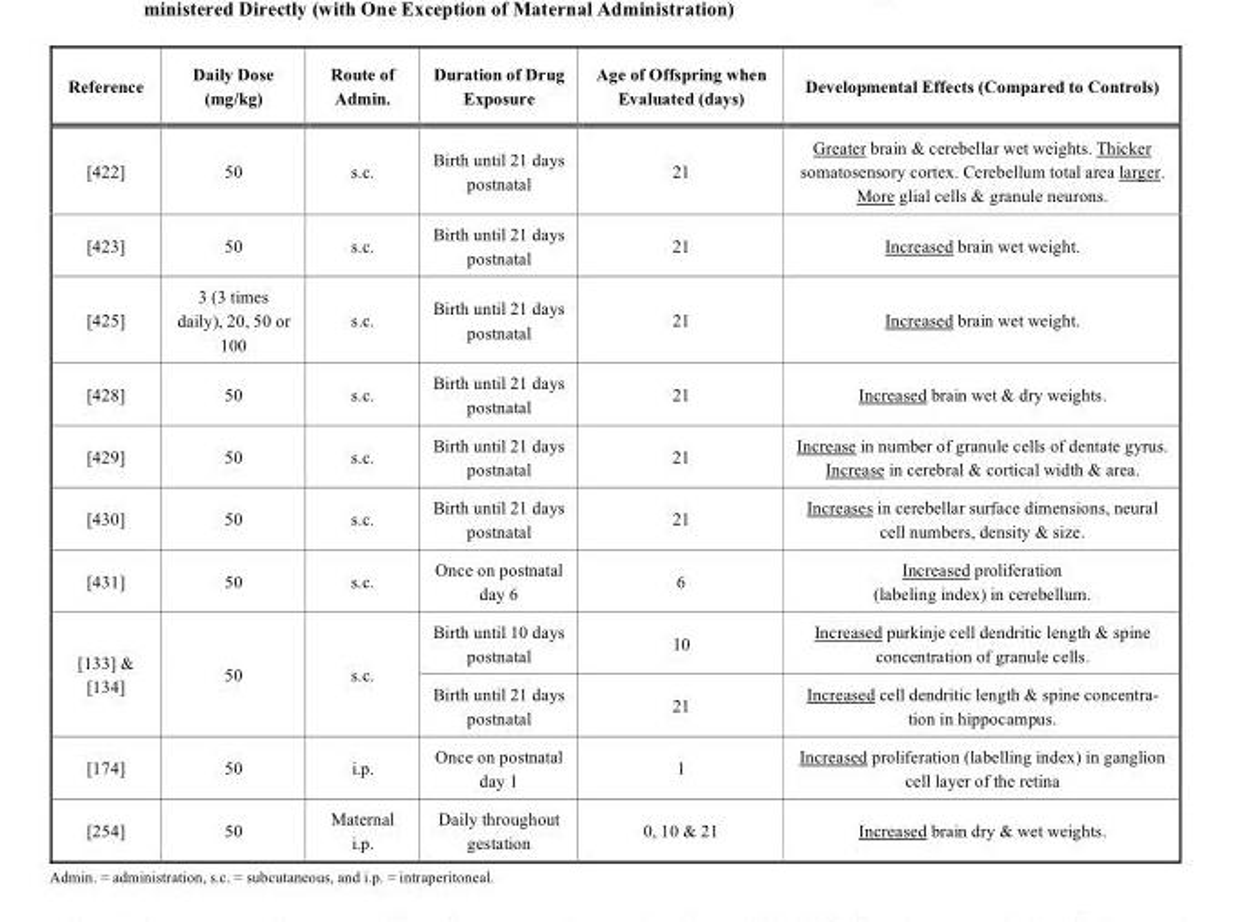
<table><thead><tr><td>Reference</td><td>Daily Dose (mg/kg)</td><td>Route of Admin.</td><td>Duration of Drug Exposure</td><td>Age of Offspring when Evaluated (days)</td><td>Developmental Effects (Compared to Controls)</td></tr></thead><tbody><tr><td>[422]</td><td>50</td><td>s.c.</td><td>Birth until 21 days postnatal</td><td>21</td><td>Greater brain &amp; cerebellar wet weights. Thicker somatosensory cortex. Cerebellum total area larger. More glial cells &amp; granule neurons.</td></tr><tr><td>[423]</td><td>50</td><td>s.c.</td><td>Birth until 21 days postnatal</td><td>21</td><td>Increased brain wet weight.</td></tr><tr><td>[425]</td><td>3 (3 times daily), 20, 50 or 100</td><td>s.c.</td><td>Birth until 21 days postnatal</td><td>21</td><td>Increased brain wet weight.</td></tr><tr><td>[428]</td><td>50</td><td>s.c.</td><td>Birth until 21 days postnatal</td><td>21</td><td>Increased brain wet &amp; dry weights.</td></tr><tr><td>[429]</td><td>50</td><td>s.c.</td><td>Birth until 21 days postnatal</td><td>21</td><td>Increase in number of granule cells of dentate gyrus. Increase in cerebral &amp; cortical width &amp; area.</td></tr><tr><td>[430]</td><td>50</td><td>s.c.</td><td>Birth until 21 days postnatal</td><td>21</td><td>Increases in cerebellar surface dimensions, neural cell numbers, density &amp; size.</td></tr><tr><td>[431]</td><td>50</td><td>s.c.</td><td>Once on postnatal day 6</td><td>6</td><td>Increased proliferation (labeling index) in cerebellum.</td></tr><tr><td rowspan="2">[133] &amp; [134]</td><td rowspan="2">50</td><td rowspan="2">s.c.</td><td>Birth until 10 days postnatal</td><td>10</td><td>Increased purkinje cell dendritic length &amp; spine concentration of granule cells.</td></tr><tr><td>Birth until 21 days postnatal</td><td>21</td><td>Increased cell dendritic length &amp; spine concentra- tion in hippocampus.</td></tr><tr><td>[174]</td><td>50</td><td>i.p.</td><td>Once on postnatal day 1</td><td>1</td><td>Increased proliferation (labelling index) in ganglion cell layer of the retina</td></tr><tr><td>[254]</td><td>50</td><td>Maternal i.p.</td><td>Daily throughout gestation</td><td>0, 10 &amp; 21</td><td>Increased brain dry &amp; wet weights.</td></tr></tbody></table>